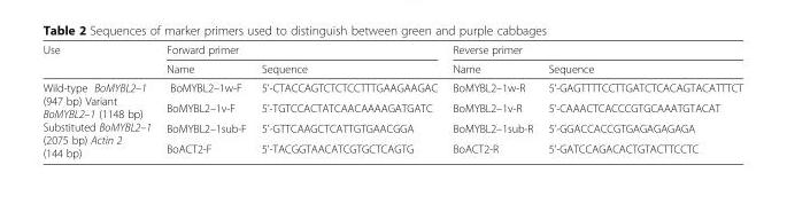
<table><thead><tr><td rowspan="2">Use</td><td colspan="2">Forward primer</td><td colspan="2">Reverse primer</td></tr><tr><td>Name</td><td>Sequence</td><td>Name</td><td>Sequence</td></tr></thead><tbody><tr><td rowspan="4">Wild-type BoMYBL2–1 (947 bp) Variant BoMYBL2–1 (1148 bp) Substituted BoMYBL2–1 (2075 bp) Actin 2 (144 bp)</td><td>BoMYBL2–1w-F</td><td>5’-CTACCAGTCTCTCCTTTGAAGAAGAC</td><td>BoMYBL2–1w-R</td><td>5’-GAGTTTTCCTTGATCTCACAGTACATTTCT</td></tr><tr><td>BoMYBL2–1v-F</td><td>5’-TGTCCACTATCAACAAAAGATGATC</td><td>BoMYBL2–1v-R</td><td>5’-CAAACTCACCCGTGCAAATGTACAT</td></tr><tr><td>BoMYBL2–1sub-F</td><td>5’-GTTCAAGCTCATTGTGAACGGA</td><td>BoMYBL2–1sub-R</td><td>5’-GGACCACCGTGAGAGAGAGA</td></tr><tr><td>BoACT2-F</td><td>5’-TACGGTAACATCGTGCTCAGTG</td><td>BoACT2-R</td><td>5’-GATCCAGACACTGTACTTCCTC</td></tr></tbody></table>